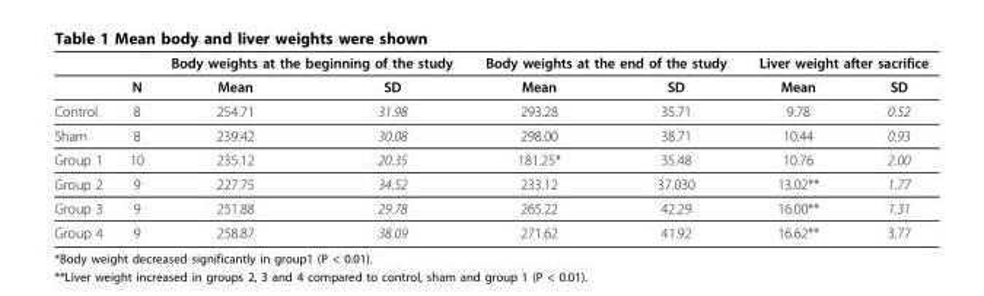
<table><thead><tr><td rowspan="2"></td><td rowspan="2">N</td><td colspan="2">Body weights at the beginning of the study</td><td colspan="2">Body weights at the end of the study</td><td colspan="2">Liver weight after sacrifice</td></tr><tr><td>Mean</td><td>SD</td><td>Mean</td><td>SD</td><td>Mean</td><td>SD</td></tr></thead><tbody><tr><td>Control</td><td>8</td><td>254.71</td><td>31.98</td><td>293.28</td><td>35.71</td><td>9.78</td><td>0.52</td></tr><tr><td>Sham</td><td>8</td><td>239.42</td><td>30.08</td><td>298.00</td><td>38.71</td><td>10.44</td><td>0.93</td></tr><tr><td>Group 1</td><td>10</td><td>235.12</td><td>20.35</td><td>181.25*</td><td>35.48</td><td>10.76</td><td>2.00</td></tr><tr><td>Group 2</td><td>9</td><td>227.75</td><td>34.52</td><td>233.12</td><td>37.030</td><td>13.02**</td><td>1.77</td></tr><tr><td>Group 3</td><td>9</td><td>251.88</td><td>29.78</td><td>265.22</td><td>42.29</td><td>16.00**</td><td>1.31</td></tr><tr><td>Group 4</td><td>9</td><td>258.87</td><td>38.09</td><td>271.62</td><td>41.92</td><td>16.62**</td><td>3.77</td></tr></tbody></table>